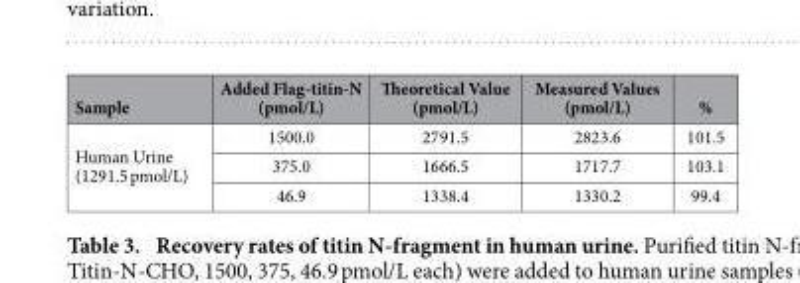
<table><thead><tr><td>Sample</td><td>Added Flag-titin-N (pmol/L)</td><td>Theoretical Value (pmol/L)</td><td>Measured Values (pmol/L)</td><td>%</td></tr></thead><tbody><tr><td rowspan="3">Human Urine (1291.5 pmol/L)</td><td>1500.0</td><td>2791.5</td><td>2823.6</td><td>101.5</td></tr><tr><td>375.0</td><td>1666.5</td><td>1717.7</td><td>103.1</td></tr><tr><td>46.9</td><td>1338.4</td><td>1330.2</td><td>99.4</td></tr></tbody></table>